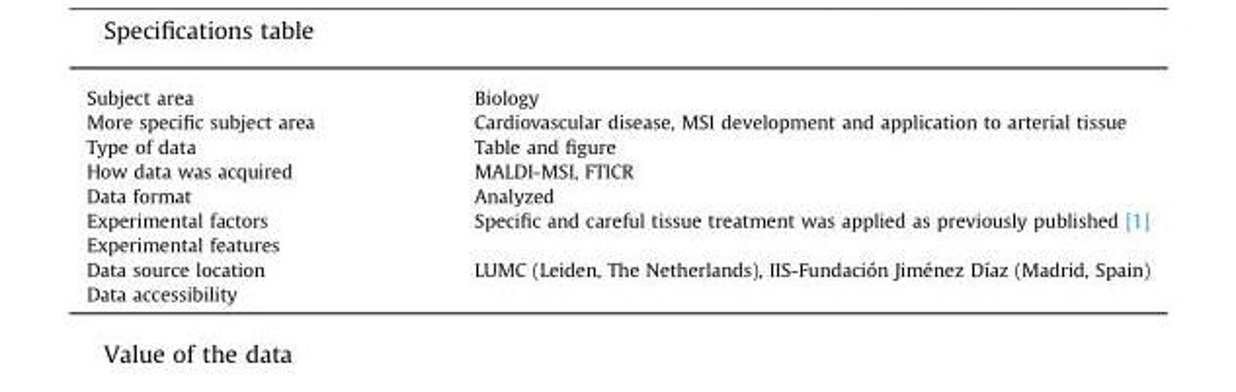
<table><tbody><tr><td>Subject area</td><td>Biology</td></tr><tr><td>More specific subject area</td><td>Cardiovascular disease, MSI development and application to arterial tissue</td></tr><tr><td>Type of data</td><td>Table and figure</td></tr><tr><td>How data was acquired</td><td>MALDI-MSI, FTICR</td></tr><tr><td>Data format</td><td>Analyzed</td></tr><tr><td>Experimental factors</td><td>Specific and careful tissue treatment was applied as previously published [1]</td></tr><tr><td colspan="2">Experimental features</td></tr><tr><td>Data source location</td><td>LUMC (Leiden, The Netherlands), IIS-Fundación Jiménez Díaz (Madrid, Spain)</td></tr><tr><td>Data accessibility</td><td></td></tr></tbody></table>